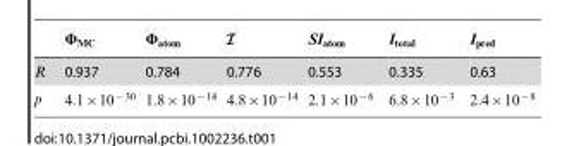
<table><tbody><tr><td>0.937</td><td>0.784</td><td>0.776</td><td>0.553</td><td>0.335</td><td>0.63</td></tr></tbody></table>